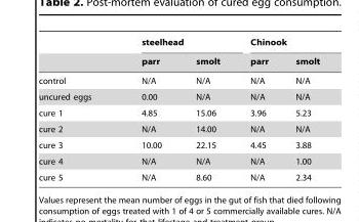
<table><thead><tr><td rowspan="2"></td><td colspan="2">steelhead</td><td colspan="2">Chinook</td></tr><tr><td>parr</td><td>smolt</td><td>parr</td><td>smolt</td></tr></thead><tbody><tr><td>control</td><td>N/A</td><td>N/A</td><td>N/A</td><td>N/A</td></tr><tr><td>uncured eggs</td><td>0.00</td><td>N/A</td><td>N/A</td><td>N/A</td></tr><tr><td>cure 1</td><td>4.85</td><td>15.06</td><td>3.96</td><td>5.23</td></tr><tr><td>cure 2</td><td>N/A</td><td>14.00</td><td>N/A</td><td>N/A</td></tr><tr><td>cure 3</td><td>10.00</td><td>22.15</td><td>4.45</td><td>3.88</td></tr><tr><td>cure 4</td><td>N/A</td><td>N/A</td><td>N/A</td><td>1.00</td></tr><tr><td>cure 5</td><td>N/A</td><td>8.60</td><td>N/A</td><td>2.34</td></tr></tbody></table>